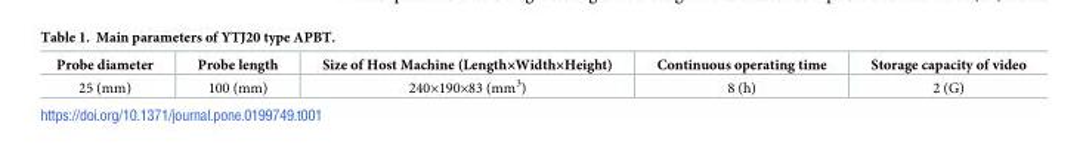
<table><thead><tr><td>Probe diameter</td><td>Probe length</td><td>Size of Host Machine (Length×Width×Height)</td><td>Continuous operating time</td><td>Storage capacity of video</td></tr></thead><tbody><tr><td>25 (mm)</td><td>100 (mm)</td><td>240×190×83 (mm<sup>3</sup>)</td><td>8 (h)</td><td>2 (G)</td></tr></tbody></table>